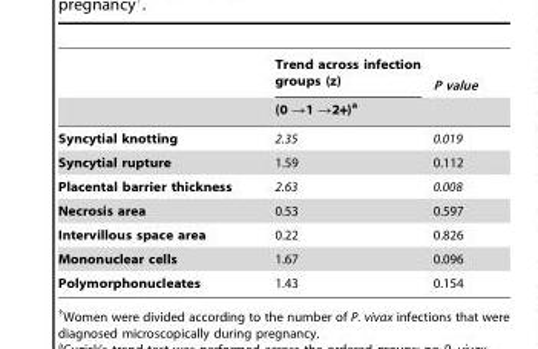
<table><thead><tr><td rowspan="2"></td><td rowspan="2">Trend across infection groups (z) (0 →1 →2+)<sup>a</sup></td><td rowspan="2">P value</td></tr><tr></tr></thead><tbody><tr><td>Syncytial knotting</td><td>2.35</td><td>0.019</td></tr><tr><td>Syncytial rupture</td><td>1.59</td><td>0.112</td></tr><tr><td>Placental barrier thickness</td><td>2.63</td><td>0.008</td></tr><tr><td>Necrosis area</td><td>0.53</td><td>0.597</td></tr><tr><td>Intervillous space area</td><td>0.22</td><td>0.826</td></tr><tr><td>Mononuclear cells</td><td>1.67</td><td>0.096</td></tr><tr><td>Polymorphonucleates</td><td>1.43</td><td>0.154</td></tr></tbody></table>